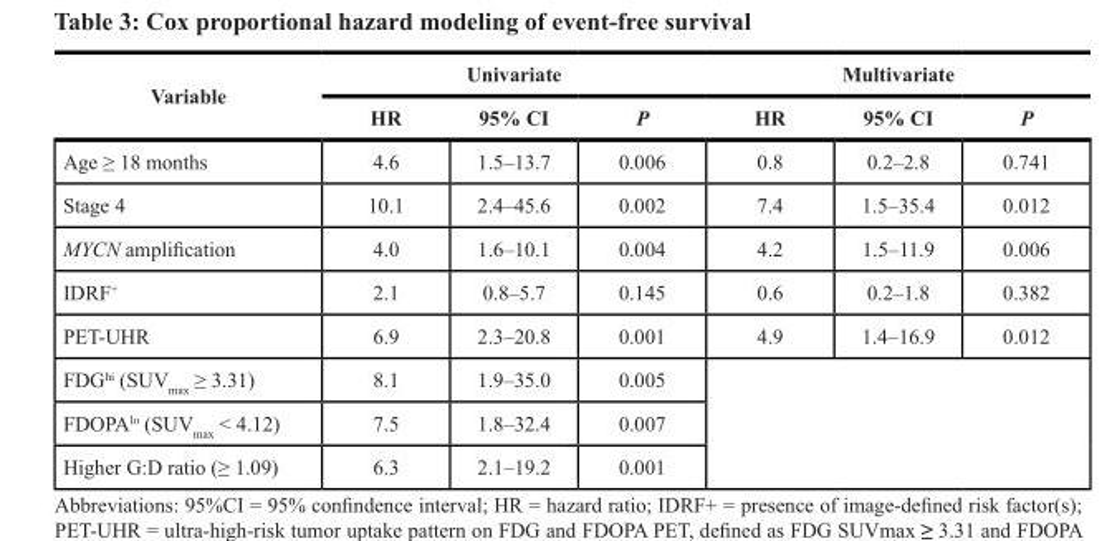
<table><thead><tr><td rowspan="2">Variable</td><td colspan="3">Univariate</td><td colspan="3">Multivariate</td></tr><tr><td>HR</td><td>95% CI</td><td>P</td><td>HR</td><td>95% CI</td><td>P</td></tr></thead><tbody><tr><td>Age ≥ 18 months</td><td>4.6</td><td>1.5–13.7</td><td>0.006</td><td>0.8</td><td>0.2–2.8</td><td>0.741</td></tr><tr><td>Stage 4</td><td>10.1</td><td>2.4–45.6</td><td>0.002</td><td>7.4</td><td>1.5–35.4</td><td>0.012</td></tr><tr><td>MYCN amplification</td><td>4.0</td><td>1.6–10.1</td><td>0.004</td><td>4.2</td><td>1.5–11.9</td><td>0.006</td></tr><tr><td>IDRF+</td><td>2.1</td><td>0.8–5.7</td><td>0.145</td><td>0.6</td><td>0.2–1.8</td><td>0.382</td></tr><tr><td>PET-UHR</td><td>6.9</td><td>2.3–20.8</td><td>0.001</td><td>4.9</td><td>1.4–16.9</td><td>0.012</td></tr><tr><td>FDG<sup>hi</sup> (SUV<sub>max</sub> ≥ 3.31)</td><td>8.1</td><td>1.9–35.0</td><td>0.005</td><td rowspan="3" colspan="3"></td></tr><tr><td>FDOPA<sup>lo</sup> (SUV<sub>max</sub> &lt; 4.12)</td><td>7.5</td><td>1.8–32.4</td><td>0.007</td></tr><tr><td>Higher G:D ratio (≥ 1.09)</td><td>6.3</td><td>2.1–19.2</td><td>0.001</td></tr></tbody></table>